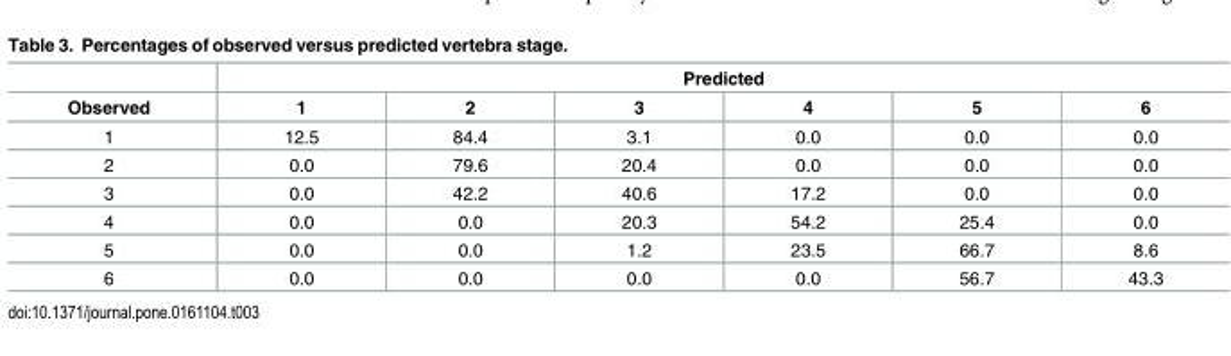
<table><thead><tr><td rowspan="2">Observed</td><td colspan="6">Predicted</td></tr><tr><td>1</td><td>2</td><td>3</td><td>4</td><td>5</td><td>6</td></tr></thead><tbody><tr><td>1</td><td>12.5</td><td>84.4</td><td>3.1</td><td>0.0</td><td>0.0</td><td>0.0</td></tr><tr><td>2</td><td>0.0</td><td>79.6</td><td>20.4</td><td>0.0</td><td>0.0</td><td>0.0</td></tr><tr><td>3</td><td>0.0</td><td>42.2</td><td>40.6</td><td>17.2</td><td>0.0</td><td>0.0</td></tr><tr><td>4</td><td>0.0</td><td>0.0</td><td>20.3</td><td>54.2</td><td>25.4</td><td>0.0</td></tr><tr><td>5</td><td>0.0</td><td>0.0</td><td>1.2</td><td>23.5</td><td>66.7</td><td>8.6</td></tr><tr><td>6</td><td>0.0</td><td>0.0</td><td>0.0</td><td>0.0</td><td>56.7</td><td>43.3</td></tr></tbody></table>